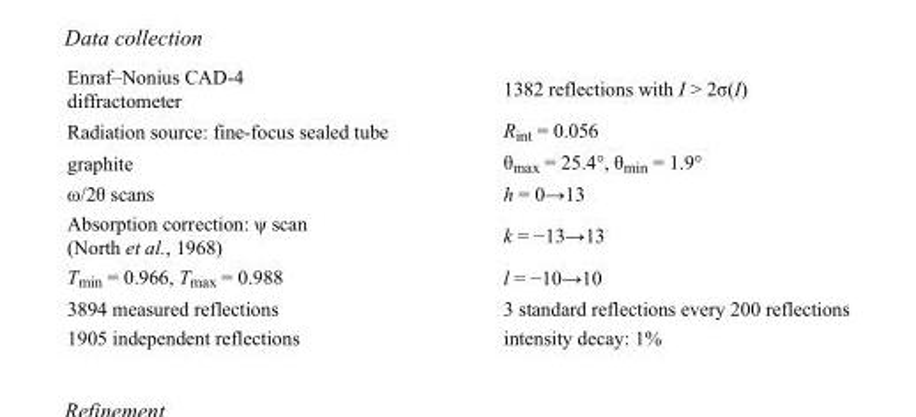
<table><tbody><tr><td>Enraf–Nonius CAD-4 diffractometer</td><td>1382 reflections with I &gt; 2σ(I)</td></tr><tr><td>Radiation source: fine-focus sealed tube</td><td>R<sub>int</sub> = 0.056</td></tr><tr><td>graphite</td><td>θ<sub>max</sub> = 25.4°, θ<sub>min</sub> = 1.9°</td></tr><tr><td>ω/2θ scans</td><td>h = 0→13</td></tr><tr><td>Absorption correction: ψ scan (North et al., 1968)</td><td>k = −13→13</td></tr><tr><td>T<sub>min</sub> = 0.966, T<sub>max</sub> = 0.988</td><td>l = −10→10</td></tr><tr><td>3894 measured reflections</td><td>3 standard reflections every 200 reflections</td></tr><tr><td>1905 independent reflections</td><td>intensity decay: 1%</td></tr></tbody></table>